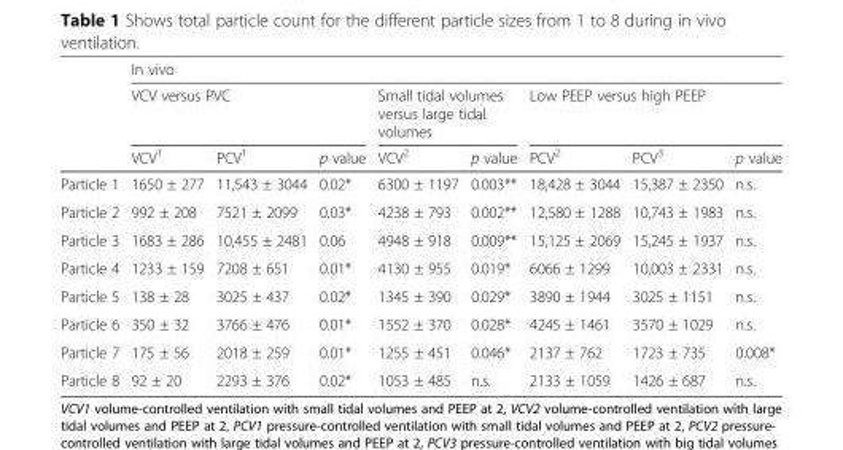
<table><thead><tr><td rowspan="3"></td><td colspan="8">In vivo</td></tr><tr><td colspan="3">VCV versus PVC</td><td colspan="2">Small tidal volumes versus large tidal volumes</td><td colspan="3">Low PEEP versus high PEEP</td></tr><tr><td>VCV<sup>1</sup></td><td>PCV<sup>1</sup></td><td>p value</td><td>VCV<sup>2</sup></td><td>p value</td><td>PCV<sup>2</sup></td><td>PCV<sup>3</sup></td><td>p value</td></tr></thead><tbody><tr><td>Particle 1</td><td>1650 ± 277</td><td>11,543 ± 3044</td><td>0.02*</td><td>6300 ± 1197</td><td>0.003**</td><td>18,428 ± 3044</td><td>15,387 ± 2350</td><td>n.s.</td></tr><tr><td>Particle 2</td><td>992 ± 208</td><td>7521 ± 2099</td><td>0.03*</td><td>4238 ± 793</td><td>0.002**</td><td>12,580 ± 1288</td><td>10,743 ± 1983</td><td>n.s.</td></tr><tr><td>Particle 3</td><td>1683 ± 286</td><td>10,455 ± 2481</td><td>0.06</td><td>4948 ± 918</td><td>0.009**</td><td>15,125 ± 2069</td><td>15,245 ± 1937</td><td>n.s.</td></tr><tr><td>Particle 4</td><td>1233 ± 159</td><td>7208 ± 651</td><td>0.01*</td><td>4130 ± 955</td><td>0.019*</td><td>6066 ± 1299</td><td>10,003 ± 2331</td><td>n.s.</td></tr><tr><td>Particle 5</td><td>138 ± 28</td><td>3025 ± 437</td><td>0.02*</td><td>1345 ± 390</td><td>0.029*</td><td>3890 ± 1944</td><td>3025 ± 1151</td><td>n.s.</td></tr><tr><td>Particle 6</td><td>350 ± 32</td><td>3766 ± 476</td><td>0.01*</td><td>1552 ± 370</td><td>0.028*</td><td>4245 ± 1461</td><td>3570 ± 1029</td><td>n.s.</td></tr><tr><td>Particle 7</td><td>175 ± 56</td><td>2018 ± 259</td><td>0.01*</td><td>1255 ± 451</td><td>0.046*</td><td>2137 ± 762</td><td>1723 ± 735</td><td>0.008*</td></tr><tr><td>Particle 8</td><td>92 ± 20</td><td>2293 ± 376</td><td>0.02*</td><td>1053 ± 485</td><td>n.s.</td><td>2133 ± 1059</td><td>1426 ± 687</td><td>n.s.</td></tr></tbody></table>